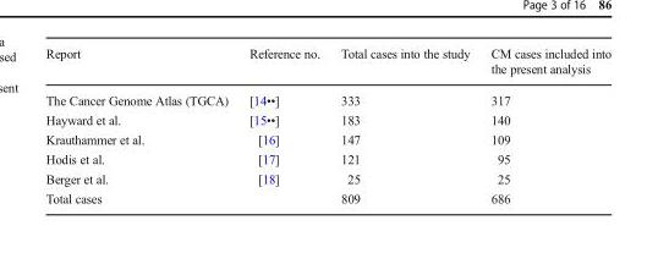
<table><thead><tr><td>Report</td><td>Reference no.</td><td>Total cases into the study</td><td>CM cases included into the present analysis</td></tr></thead><tbody><tr><td>The Cancer Genome Atlas (TGCA)</td><td>[14••]</td><td>333</td><td>317</td></tr><tr><td>Hayward et al.</td><td>[15••]</td><td>183</td><td>140</td></tr><tr><td>Krauthammer et al.</td><td>[16]</td><td>147</td><td>109</td></tr><tr><td>Hodis et al.</td><td>[17]</td><td>121</td><td>95</td></tr><tr><td>Berger et al.</td><td>[18]</td><td>25</td><td>25</td></tr><tr><td>Total cases</td><td></td><td>809</td><td>686</td></tr></tbody></table>